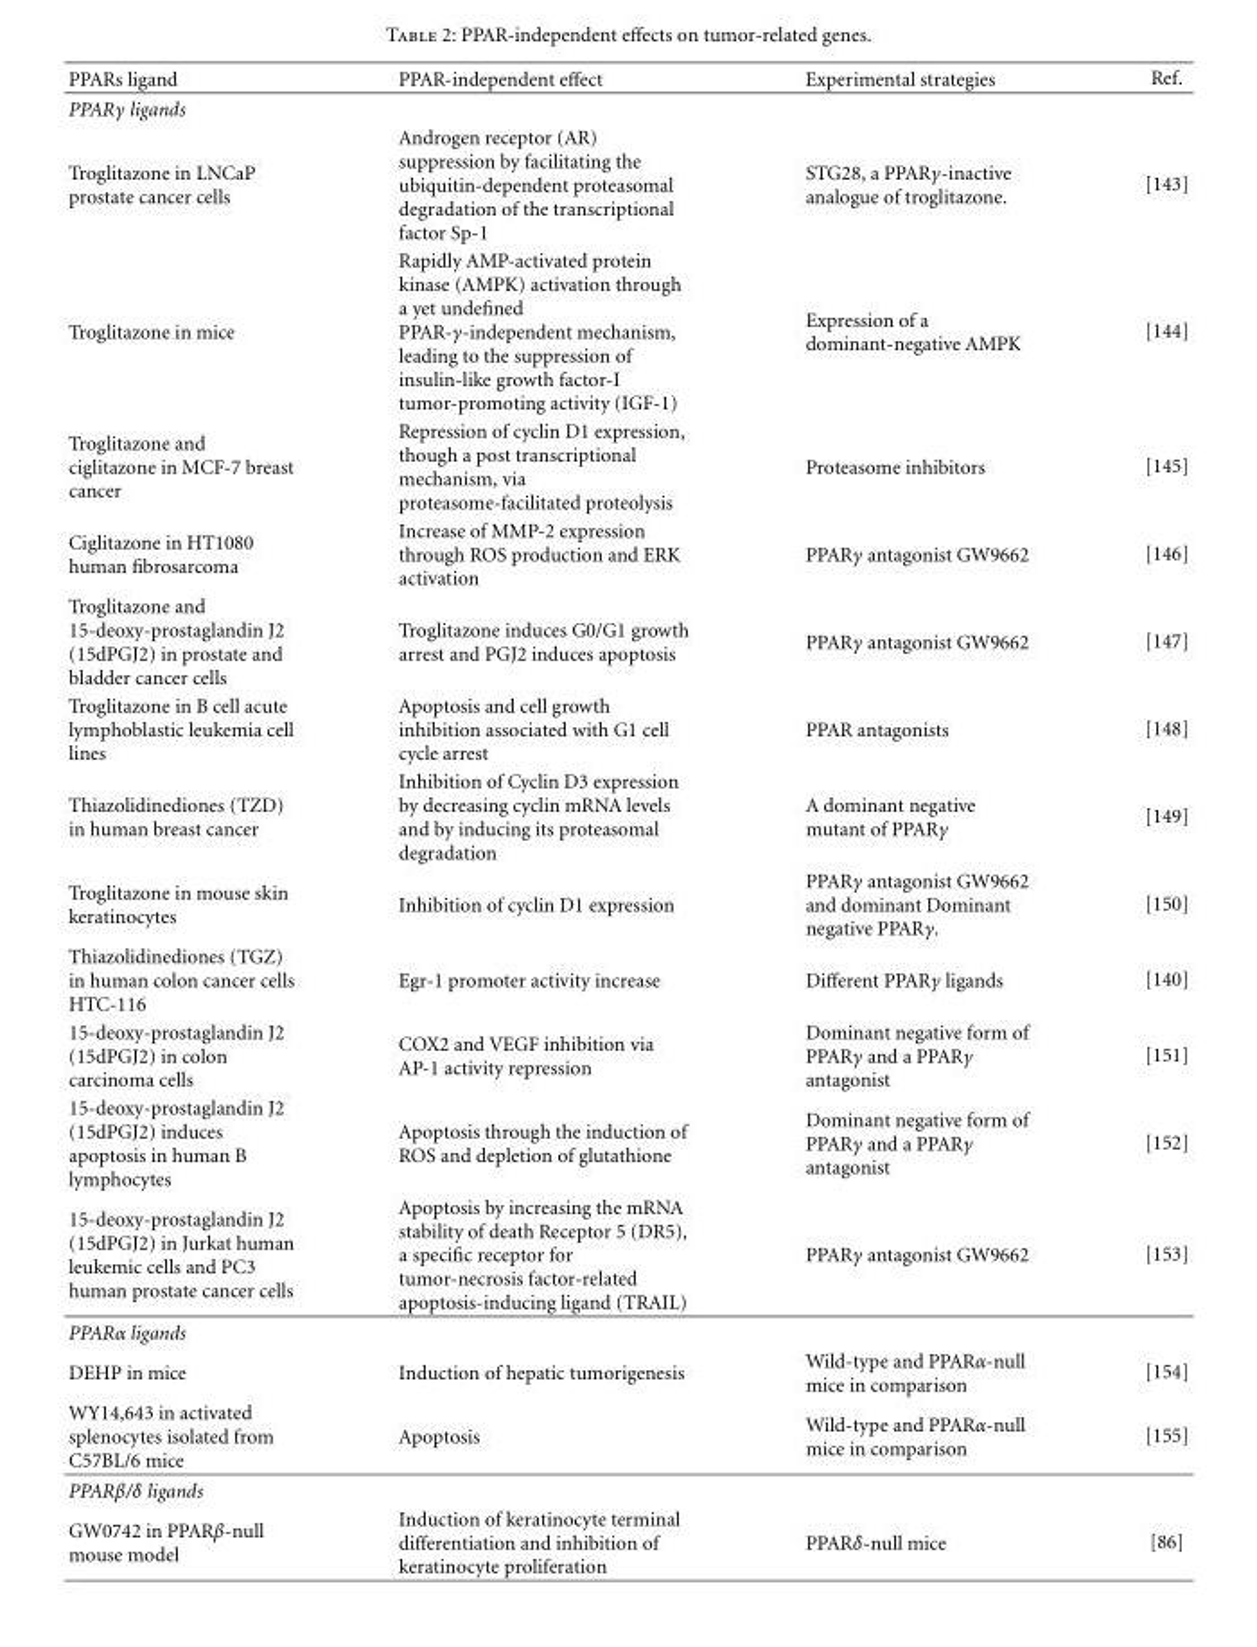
<table><thead><tr><td>PPARs ligand</td><td>PPAR-independent effect</td><td>Experimental strategies</td><td>Ref.</td></tr></thead><tbody><tr><td colspan="4">PPARγ ligands</td></tr><tr><td>Troglitazone in LNCaP prostate cancer cells</td><td>Androgen receptor (AR) suppression by facilitating the ubiquitin-dependent proteasomal degradation of the transcriptional factor Sp-1</td><td>STG28, a PPARγ-inactive analogue of troglitazone.</td><td>[143]</td></tr><tr><td>Troglitazone in mice</td><td>Rapidly AMP-activated protein kinase (AMPK) activation through a yet undefined PPAR-γ-independent mechanism, leading to the suppression of insulin-like growth factor-I tumor-promoting activity (IGF-1)</td><td>Expression of a dominant-negative AMPK</td><td>[144]</td></tr><tr><td>Troglitazone and ciglitazone in MCF-7 breast cancer</td><td>Repression of cyclin D1 expression, though a post transcriptional mechanism, via proteasome-facilitated proteolysis</td><td>Proteasome inhibitors</td><td>[145]</td></tr><tr><td>Ciglitazone in HT1080 human fibrosarcoma</td><td>Increase of MMP-2 expression through ROS production and ERK activation</td><td>PPARγ antagonist GW9662</td><td>[146]</td></tr><tr><td>Troglitazone and 15-deoxy-prostaglandin J2 (15dPGJ2) in prostate and bladder cancer cells</td><td>Troglitazone induces G0/G1 growth arrest and PGJ2 induces apoptosis</td><td>PPARγ antagonist GW9662</td><td>[147]</td></tr><tr><td>Troglitazone in B cell acute lymphoblastic leukemia cell lines</td><td>Apoptosis and cell growth inhibition associated with G1 cell cycle arrest</td><td>PPAR antagonists</td><td>[148]</td></tr><tr><td>Thiazolidinediones (TZD) in human breast cancer</td><td>Inhibition of Cyclin D3 expression by decreasing cyclin mRNA levels and by inducing its proteasomal degradation</td><td>A dominant negative mutant of PPARγ</td><td>[149]</td></tr><tr><td>Troglitazone in mouse skin keratinocytes</td><td>Inhibition of cyclin D1 expression</td><td>PPARγ antagonist GW9662 and dominant Dominant negative PPARγ.</td><td>[150]</td></tr><tr><td>Thiazolidinediones (TGZ) in human colon cancer cells HTC-116</td><td>Egr-1 promoter activity increase</td><td>Different PPARγ ligands</td><td>[140]</td></tr><tr><td>15-deoxy-prostaglandin J2 (15dPGJ2) in colon carcinoma cells</td><td>COX2 and VEGF inhibition via AP-1 activity repression</td><td>Dominant negative form of PPARγ and a PPARγ antagonist</td><td>[151]</td></tr><tr><td>15-deoxy-prostaglandin J2 (15dPGJ2) induces apoptosis in human B lymphocytes</td><td>Apoptosis through the induction of ROS and depletion of glutathione</td><td>Dominant negative form of PPARγ and a PPARγ antagonist</td><td>[152]</td></tr><tr><td>15-deoxy-prostaglandin J2 (15dPGJ2) in Jurkat human leukemic cells and PC3 human prostate cancer cells</td><td>Apoptosis by increasing the mRNA stability of death Receptor 5 (DR5), a specific receptor for tumor-necrosis factor-related apoptosis-inducing ligand (TRAIL)</td><td>PPARγ antagonist GW9662</td><td>[153]</td></tr><tr><td colspan="4">PPARα ligands</td></tr><tr><td>DEHP in mice</td><td>Induction of hepatic tumorigenesis</td><td>Wild-type and PPARα-null mice in comparison</td><td>[154]</td></tr><tr><td>WY14,643 in activated splenocytes isolated from C57BL/6 mice</td><td>Apoptosis</td><td>Wild-type and PPARα-null mice in comparison</td><td>[155]</td></tr><tr><td colspan="4">PPARβ/δ ligands</td></tr><tr><td>GW0742 in PPARβ-null mouse model</td><td>Induction of keratinocyte terminal differentiation and inhibition of keratinocyte proliferation</td><td>PPARδ-null mice</td><td>[86]</td></tr></tbody></table>